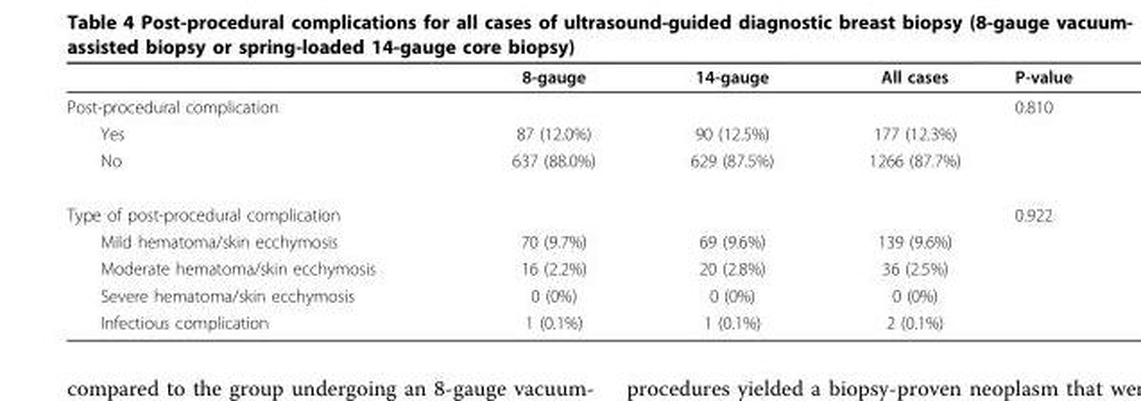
<table><thead><tr><td></td><td>8-gauge</td><td>14-gauge</td><td>All cases</td><td>P-value</td></tr></thead><tbody><tr><td>Post-procedural complication</td><td></td><td></td><td></td><td>0.810</td></tr><tr><td>Yes</td><td>87 (12.0%)</td><td>90 (12.5%)</td><td>177 (12.3%)</td><td></td></tr><tr><td>No</td><td>637 (88.0%)</td><td>629 (87.5%)</td><td>1266 (87.7%)</td><td></td></tr><tr><td>Type of post-procedural complication</td><td></td><td></td><td></td><td>0.922</td></tr><tr><td>Mild hematoma/skin ecchymosis</td><td>70 (9.7%)</td><td>69 (9.6%)</td><td>139 (9.6%)</td><td></td></tr><tr><td>Moderate hematoma/skin ecchymosis</td><td>16 (2.2%)</td><td>20 (2.8%)</td><td>36 (2.5%)</td><td></td></tr><tr><td>Severe hematoma/skin ecchymosis</td><td>0 (0%)</td><td>0 (0%)</td><td>0 (0%)</td><td></td></tr><tr><td>Infectious complication</td><td>1 (0.1%)</td><td>1 (0.1%)</td><td>2 (0.1%)</td><td></td></tr></tbody></table>